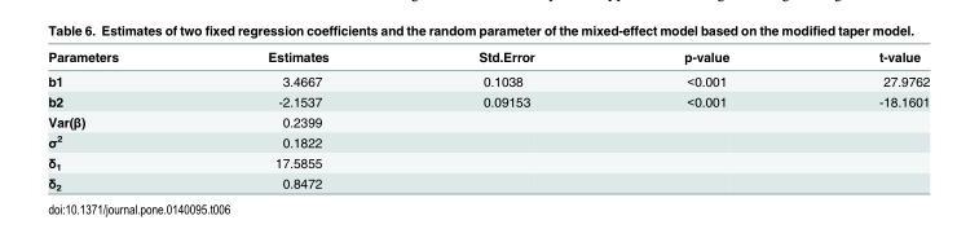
<table><thead><tr><td>Parameters</td><td>Estimates</td><td>Std.Error</td><td>p-value</td><td>t-value</td></tr></thead><tbody><tr><td>b1</td><td>3.4667</td><td>0.1038</td><td>&lt;0.001</td><td>27.9762</td></tr><tr><td>b2</td><td>-2.1537</td><td>0.09153</td><td>&lt;0.001</td><td>-18.1601</td></tr><tr><td>Var(β)</td><td>0.2399</td><td></td><td></td><td></td></tr><tr><td>σ<sup>2</sup></td><td>0.1822</td><td></td><td></td><td></td></tr><tr><td>δ<sub>1</sub></td><td>17.5855</td><td></td><td></td><td></td></tr><tr><td>δ<sub>2</sub></td><td>0.8472</td><td></td><td></td><td></td></tr></tbody></table>